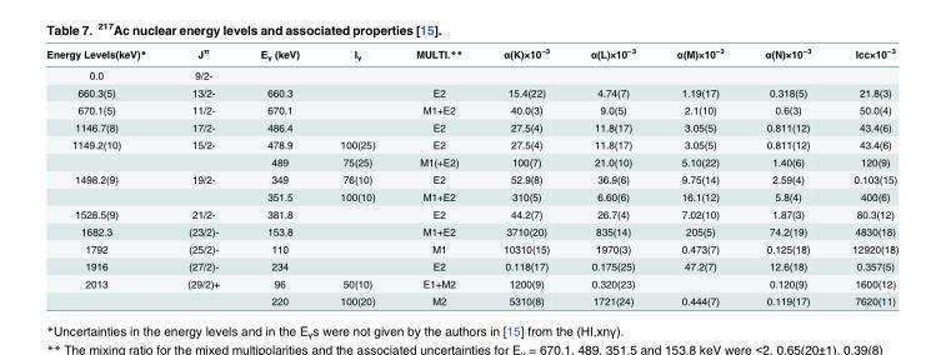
<table><thead><tr><td>Energy Levels(keV)*</td><td>J<sup>π</sup></td><td>E<sub>γ</sub> (keV)</td><td>I<sub>γ</sub></td><td>MULTI.**</td><td>α(K)×10<sup>−3</sup></td><td>α(L)×10<sup>−3</sup></td><td>α(M)×10<sup>−3</sup></td><td>α(N)×10<sup>−3</sup></td><td>Icc×10<sup>−3</sup></td></tr></thead><tbody><tr><td>0.0</td><td>9/2-</td><td></td><td></td><td></td><td></td><td></td><td></td><td></td><td></td></tr><tr><td>660.3(5)</td><td>13/2-</td><td>660.3</td><td></td><td>E2</td><td>15.4(22)</td><td>4.74(7)</td><td>1.19(17)</td><td>0.318(5)</td><td>21.8(3)</td></tr><tr><td>670.1(5)</td><td>11/2-</td><td>670.1</td><td></td><td>M1+E2</td><td>40.0(3)</td><td>9.0(5)</td><td>2.1(10)</td><td>0.6(3)</td><td>50.0(4)</td></tr><tr><td>1146.7(8)</td><td>17/2-</td><td>486.4</td><td></td><td>E2</td><td>27.5(4)</td><td>11.8(17)</td><td>3.05(5)</td><td>0.811(12)</td><td>43.4(6)</td></tr><tr><td rowspan="2">1149.2(10)</td><td>15/2-</td><td>478.9</td><td>100(25)</td><td>E2</td><td>27.5(4)</td><td>11.8(17)</td><td>3.05(5)</td><td>0.811(12)</td><td>43.4(6)</td></tr><tr><td></td><td>489</td><td>75(25)</td><td>M1(+E2)</td><td>100(7)</td><td>21.0(10)</td><td>5.10(22)</td><td>1.40(6)</td><td>120(9)</td></tr><tr><td rowspan="2">1498.2(9)</td><td>19/2-</td><td>349</td><td>76(10)</td><td>E2</td><td>52.9(8)</td><td>36.9(6)</td><td>9.75(14)</td><td>2.59(4)</td><td>0.103(15)</td></tr><tr><td></td><td>351.5</td><td>100(10)</td><td>M1+E2</td><td>310(5)</td><td>6.60(6)</td><td>16.1(12)</td><td>5.8(4)</td><td>400(6)</td></tr><tr><td>1528.5(9)</td><td>21/2-</td><td>381.8</td><td></td><td>E2</td><td>44.2(7)</td><td>26.7(4)</td><td>7.02(10)</td><td>1.87(3)</td><td>80.3(12)</td></tr><tr><td>1682.3</td><td>(23/2)-</td><td>153.8</td><td></td><td>M1+E2</td><td>3710(20)</td><td>835(14)</td><td>205(5)</td><td>74.2(19)</td><td>4830(18)</td></tr><tr><td>1792</td><td>(25/2)-</td><td>110</td><td></td><td>M1</td><td>10310(15)</td><td>1970(3)</td><td>0.473(7)</td><td>0.125(18)</td><td>12920(18)</td></tr><tr><td>1916</td><td>(27/2)-</td><td>234</td><td></td><td>E2</td><td>0.118(17)</td><td>0.175(25)</td><td>47.2(7)</td><td>12.6(18)</td><td>0.357(5)</td></tr><tr><td rowspan="2">2013</td><td>(29/2)+</td><td>96</td><td>50(10)</td><td>E1+M2</td><td>1200(9)</td><td>0.320(23)</td><td></td><td>0.120(9)</td><td>1600(12)</td></tr><tr><td></td><td>220</td><td>100(20)</td><td>M2</td><td>5310(8)</td><td>1721(24)</td><td>0.444(7)</td><td>0.119(17)</td><td>7620(11)</td></tr></tbody></table>